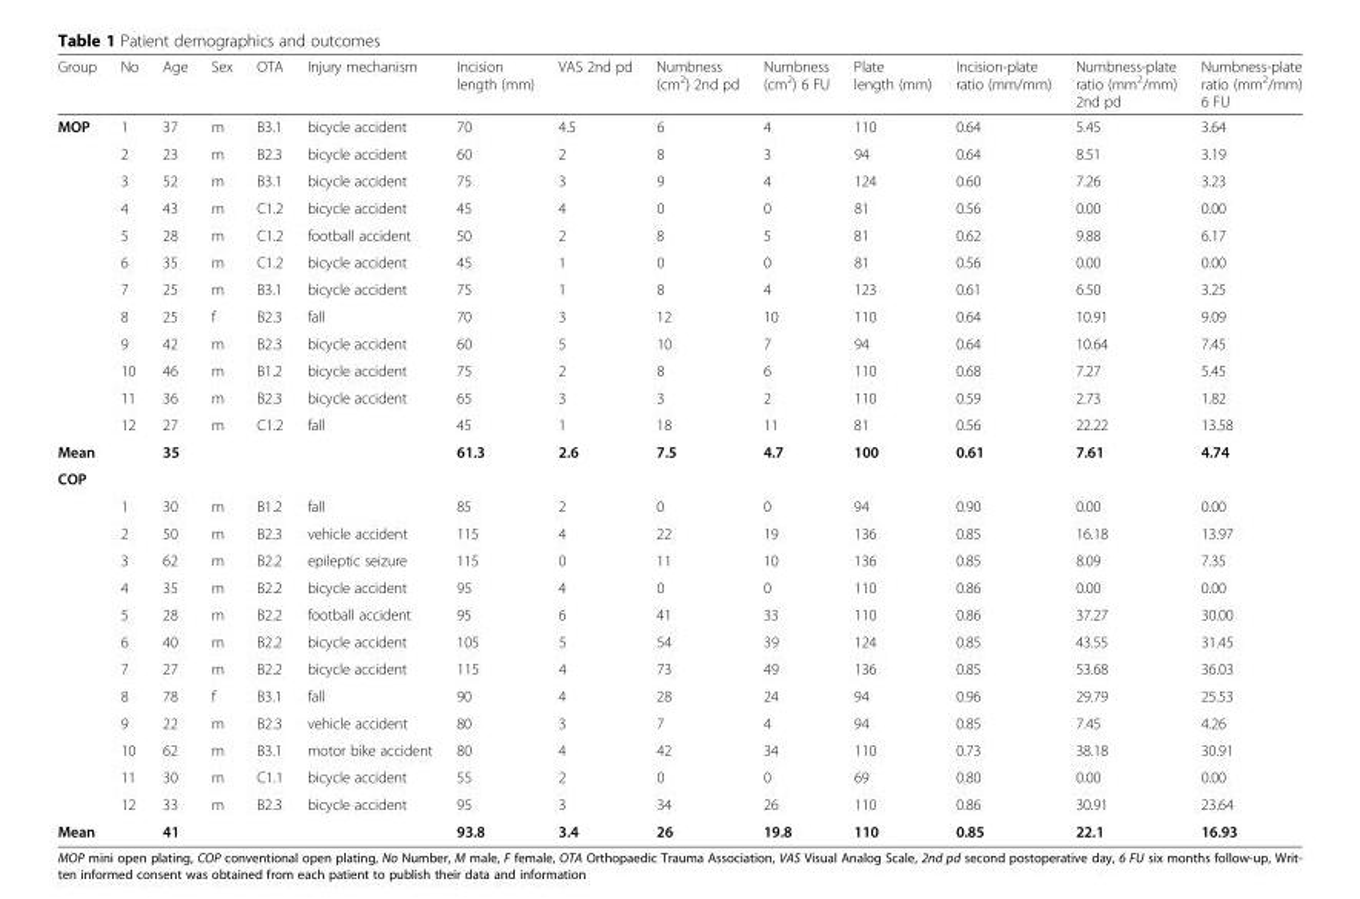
<table><tbody><tr><td>Group</td><td>No</td><td>Age</td><td>Sex</td><td>OTA</td><td>Injury mechanism</td><td>Incision length (mm)</td><td>VAS 2nd pd</td><td>Numbness (cm<sup>2</sup>) 2nd pd</td><td>Numbness (cm<sup>2</sup>) 6 FU</td><td>Plate length (mm)</td><td>Incision-plate ratio (mm/mm)</td><td>Numbness-plate ratio (mm<sup>2</sup>/mm) 2nd pd</td><td>Numbness-plate ratio (mm<sup>2</sup>/mm) 6 FU</td></tr><tr><td rowspan="12">MOP</td><td>1</td><td>37</td><td>m</td><td>B3.1</td><td>bicycle accident</td><td>70</td><td>4.5</td><td>6</td><td>4</td><td>110</td><td>0.64</td><td>5.45</td><td>3.64</td></tr><tr><td>2</td><td>23</td><td>m</td><td>B2.3</td><td>bicycle accident</td><td>60</td><td>2</td><td>8</td><td>3</td><td>94</td><td>0.64</td><td>8.51</td><td>3.19</td></tr><tr><td>3</td><td>52</td><td>m</td><td>B3.1</td><td>bicycle accident</td><td>75</td><td>3</td><td>9</td><td>4</td><td>124</td><td>0.60</td><td>7.26</td><td>3.23</td></tr><tr><td>4</td><td>43</td><td>m</td><td>C1.2</td><td>bicycle accident</td><td>45</td><td>4</td><td>0</td><td>0</td><td>81</td><td>0.56</td><td>0.00</td><td>0.00</td></tr><tr><td>5</td><td>28</td><td>m</td><td>C1.2</td><td>football accident</td><td>50</td><td>2</td><td>8</td><td>5</td><td>81</td><td>0.62</td><td>9.88</td><td>6.17</td></tr><tr><td>6</td><td>35</td><td>m</td><td>C1.2</td><td>bicycle accident</td><td>45</td><td>1</td><td>0</td><td>0</td><td>81</td><td>0.56</td><td>0.00</td><td>0.00</td></tr><tr><td>7</td><td>25</td><td>m</td><td>B3.1</td><td>bicycle accident</td><td>75</td><td>1</td><td>8</td><td>4</td><td>123</td><td>0.61</td><td>6.50</td><td>3.25</td></tr><tr><td>8</td><td>25</td><td>f</td><td>B2.3</td><td>fall</td><td>70</td><td>3</td><td>12</td><td>10</td><td>110</td><td>0.64</td><td>10.91</td><td>9.09</td></tr><tr><td>9</td><td>42</td><td>m</td><td>B2.3</td><td>bicycle accident</td><td>60</td><td>5</td><td>10</td><td>7</td><td>94</td><td>0.64</td><td>10.64</td><td>7.45</td></tr><tr><td>10</td><td>46</td><td>m</td><td>B1.2</td><td>bicycle accident</td><td>75</td><td>2</td><td>8</td><td>6</td><td>110</td><td>0.68</td><td>7.27</td><td>5.45</td></tr><tr><td>11</td><td>36</td><td>m</td><td>B2.3</td><td>bicycle accident</td><td>65</td><td>3</td><td>3</td><td>2</td><td>110</td><td>0.59</td><td>2.73</td><td>1.82</td></tr><tr><td>12</td><td>27</td><td>m</td><td>C1.2</td><td>fall</td><td>45</td><td>1</td><td>18</td><td>11</td><td>81</td><td>0.56</td><td>22.22</td><td>13.58</td></tr><tr><td>Mean</td><td></td><td>35</td><td></td><td></td><td></td><td>61.3</td><td>2.6</td><td>7.5</td><td>4.7</td><td>100</td><td>0.61</td><td>7.61</td><td>4.74</td></tr><tr><td colspan="14">COP</td></tr><tr><td></td><td>1</td><td>30</td><td>m</td><td>B1.2</td><td>fall</td><td>85</td><td>2</td><td>0</td><td>0</td><td>94</td><td>0.90</td><td>0.00</td><td>0.00</td></tr><tr><td></td><td>2</td><td>50</td><td>m</td><td>B2.3</td><td>vehicle accident</td><td>115</td><td>4</td><td>22</td><td>19</td><td>136</td><td>0.85</td><td>16.18</td><td>13.97</td></tr><tr><td></td><td>3</td><td>62</td><td>m</td><td>B2.2</td><td>epileptic seizure</td><td>115</td><td>0</td><td>11</td><td>10</td><td>136</td><td>0.85</td><td>8.09</td><td>7.35</td></tr><tr><td></td><td>4</td><td>35</td><td>m</td><td>B2.2</td><td>bicycle accident</td><td>95</td><td>4</td><td>0</td><td>0</td><td>110</td><td>0.86</td><td>0.00</td><td>0.00</td></tr><tr><td></td><td>5</td><td>28</td><td>m</td><td>B2.2</td><td>football accident</td><td>95</td><td>6</td><td>41</td><td>33</td><td>110</td><td>0.86</td><td>37.27</td><td>30.00</td></tr><tr><td></td><td>6</td><td>40</td><td>m</td><td>B2.2</td><td>bicycle accident</td><td>105</td><td>5</td><td>54</td><td>39</td><td>124</td><td>0.85</td><td>43.55</td><td>31.45</td></tr><tr><td></td><td>7</td><td>27</td><td>m</td><td>B2.2</td><td>bicycle accident</td><td>115</td><td>4</td><td>73</td><td>49</td><td>136</td><td>0.85</td><td>53.68</td><td>36.03</td></tr><tr><td></td><td>8</td><td>78</td><td>f</td><td>B3.1</td><td>fall</td><td>90</td><td>4</td><td>28</td><td>24</td><td>94</td><td>0.96</td><td>29.79</td><td>25.53</td></tr><tr><td></td><td>9</td><td>22</td><td>m</td><td>B2.3</td><td>vehicle accident</td><td>80</td><td>3</td><td>7</td><td>4</td><td>94</td><td>0.85</td><td>7.45</td><td>4.26</td></tr><tr><td></td><td>10</td><td>62</td><td>m</td><td>B3.1</td><td>motor bike accident</td><td>80</td><td>4</td><td>42</td><td>34</td><td>110</td><td>0.73</td><td>38.18</td><td>30.91</td></tr><tr><td></td><td>11</td><td>30</td><td>m</td><td>C1.1</td><td>bicycle accident</td><td>55</td><td>2</td><td>0</td><td>0</td><td>69</td><td>0.80</td><td>0.00</td><td>0.00</td></tr><tr><td></td><td>12</td><td>33</td><td>m</td><td>B2.3</td><td>bicycle accident</td><td>95</td><td>3</td><td>34</td><td>26</td><td>110</td><td>0.86</td><td>30.91</td><td>23.64</td></tr><tr><td>Mean</td><td></td><td>41</td><td></td><td></td><td></td><td>93.8</td><td>3.4</td><td>26</td><td>19.8</td><td>110</td><td>0.85</td><td>22.1</td><td>16.93</td></tr></tbody></table>